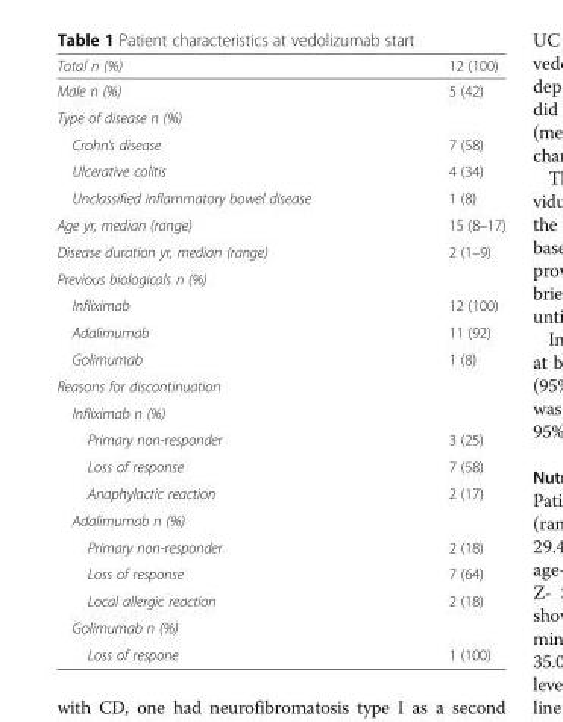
<table><thead><tr><td>Total n (%)</td><td>12 (100)</td></tr></thead><tbody><tr><td>Male n (%)</td><td>5 (42)</td></tr><tr><td colspan="2">Type of disease n (%)</td></tr><tr><td>Crohn’s disease</td><td>7 (58)</td></tr><tr><td>Ulcerative colitis</td><td>4 (34)</td></tr><tr><td>Unclassified inflammatory bowel disease</td><td>1 (8)</td></tr><tr><td>Age yr, median (range)</td><td>15 (8–17)</td></tr><tr><td>Disease duration yr, median (range)</td><td>2 (1–9)</td></tr><tr><td colspan="2">Previous biologicals n (%)</td></tr><tr><td>Infliximab</td><td>12 (100)</td></tr><tr><td>Adalimumab</td><td>11 (92)</td></tr><tr><td>Golimumab</td><td>1 (8)</td></tr><tr><td colspan="2">Reasons for discontinuation</td></tr><tr><td colspan="2">Infliximab n (%)</td></tr><tr><td>Primary non-responder</td><td>3 (25)</td></tr><tr><td>Loss of response</td><td>7 (58)</td></tr><tr><td>Anaphylactic reaction</td><td>2 (17)</td></tr><tr><td colspan="2">Adalimumab n (%)</td></tr><tr><td>Primary non-responder</td><td>2 (18)</td></tr><tr><td>Loss of response</td><td>7 (64)</td></tr><tr><td>Local allergic reaction</td><td>2 (18)</td></tr><tr><td colspan="2">Golimumab n (%)</td></tr><tr><td>Loss of respone</td><td>1 (100)</td></tr></tbody></table>